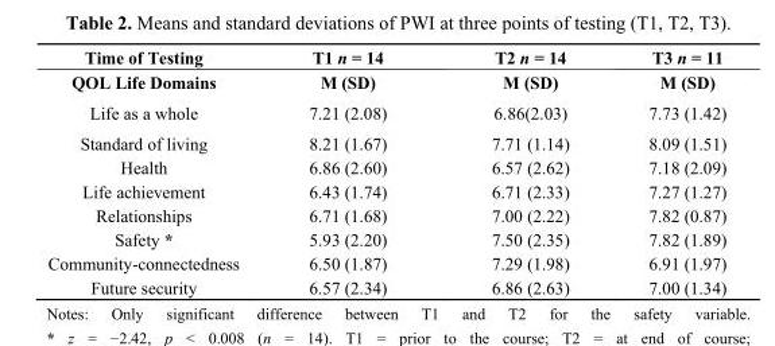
<table><thead><tr><td>Time of Testing</td><td>T1 n = 14</td><td>T2 n = 14</td><td>T3 n = 11</td></tr></thead><tbody><tr><td>QOL Life Domains</td><td>M (SD)</td><td>M (SD)</td><td>M (SD)</td></tr><tr><td>Life as a whole</td><td>7.21 (2.08)</td><td>6.86(2.03)</td><td>7.73 (1.42)</td></tr><tr><td>Standard of living</td><td>8.21 (1.67)</td><td>7.71 (1.14)</td><td>8.09 (1.51)</td></tr><tr><td>Health</td><td>6.86 (2.60)</td><td>6.57 (2.62)</td><td>7.18 (2.09)</td></tr><tr><td>Life achievement</td><td>6.43 (1.74)</td><td>6.71 (2.33)</td><td>7.27 (1.27)</td></tr><tr><td>Relationships</td><td>6.71 (1.68)</td><td>7.00 (2.22)</td><td>7.82 (0.87)</td></tr><tr><td>Safety *</td><td>5.93 (2.20)</td><td>7.50 (2.35)</td><td>7.82 (1.89)</td></tr><tr><td>Community-connectedness</td><td>6.50 (1.87)</td><td>7.29 (1.98)</td><td>6.91 (1.97)</td></tr><tr><td>Future security</td><td>6.57 (2.34)</td><td>6.86 (2.63)</td><td>7.00 (1.34)</td></tr></tbody></table>